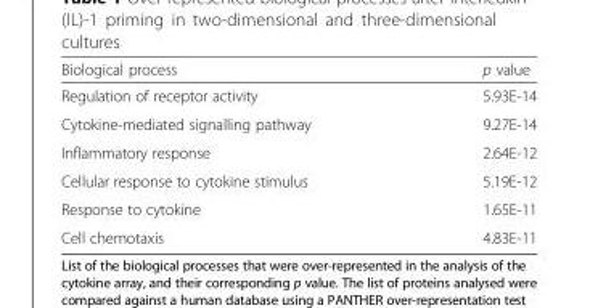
<table><thead><tr><td>Biological process</td><td>p value</td></tr></thead><tbody><tr><td>Regulation of receptor activity</td><td>5.93E-14</td></tr><tr><td>Cytokine-mediated signalling pathway</td><td>9.27E-14</td></tr><tr><td>Inflammatory response</td><td>2.64E-12</td></tr><tr><td>Cellular response to cytokine stimulus</td><td>5.19E-12</td></tr><tr><td>Response to cytokine</td><td>1.65E-11</td></tr><tr><td>Cell chemotaxis</td><td>4.83E-11</td></tr></tbody></table>